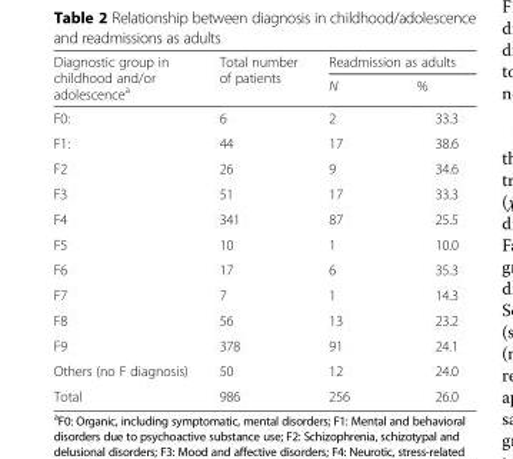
<table><thead><tr><td rowspan="2">Diagnostic group in childhood and/or adolescence<sup>a</sup></td><td rowspan="2">Total number of patients</td><td colspan="2">Readmission as adults</td></tr><tr><td>N</td><td>%</td></tr></thead><tbody><tr><td>F0:</td><td>6</td><td>2</td><td>33.3</td></tr><tr><td>F1:</td><td>44</td><td>17</td><td>38.6</td></tr><tr><td>F2</td><td>26</td><td>9</td><td>34.6</td></tr><tr><td>F3</td><td>51</td><td>17</td><td>33.3</td></tr><tr><td>F4</td><td>341</td><td>87</td><td>25.5</td></tr><tr><td>F5</td><td>10</td><td>1</td><td>10.0</td></tr><tr><td>F6</td><td>17</td><td>6</td><td>35.3</td></tr><tr><td>F7</td><td>7</td><td>1</td><td>14.3</td></tr><tr><td>F8</td><td>56</td><td>13</td><td>23.2</td></tr><tr><td>F9</td><td>378</td><td>91</td><td>24.1</td></tr><tr><td>Others (no F diagnosis)</td><td>50</td><td>12</td><td>24.0</td></tr><tr><td>Total</td><td>986</td><td>256</td><td>26.0</td></tr></tbody></table>